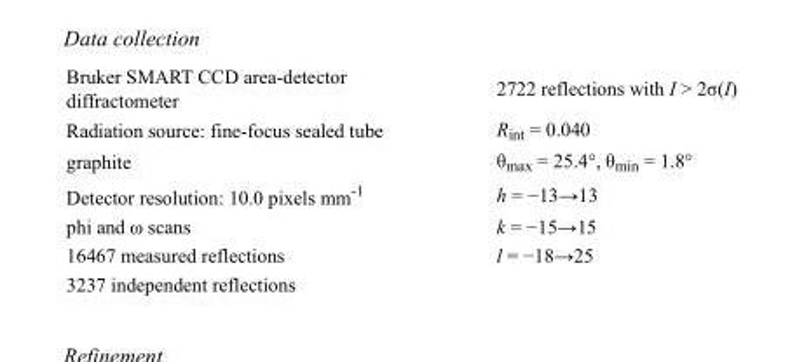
<table><tbody><tr><td>Bruker SMART CCD area-detector diffractometer</td><td>2722 reflections with I &gt; 2σ(I)</td></tr><tr><td>Radiation source: fine-focus sealed tube</td><td>R<sub>int</sub> = 0.040</td></tr><tr><td>graphite</td><td>θ<sub>max</sub> = 25.4°, θ<sub>min</sub> = 1.8°</td></tr><tr><td>Detector resolution: 10.0 pixels mm<sup>-1</sup></td><td>h = −13→13</td></tr><tr><td>phi and ω scans</td><td>k = −15→15</td></tr><tr><td>16467 measured reflections</td><td>l = −18→25</td></tr><tr><td>3237 independent reflections</td><td></td></tr></tbody></table>